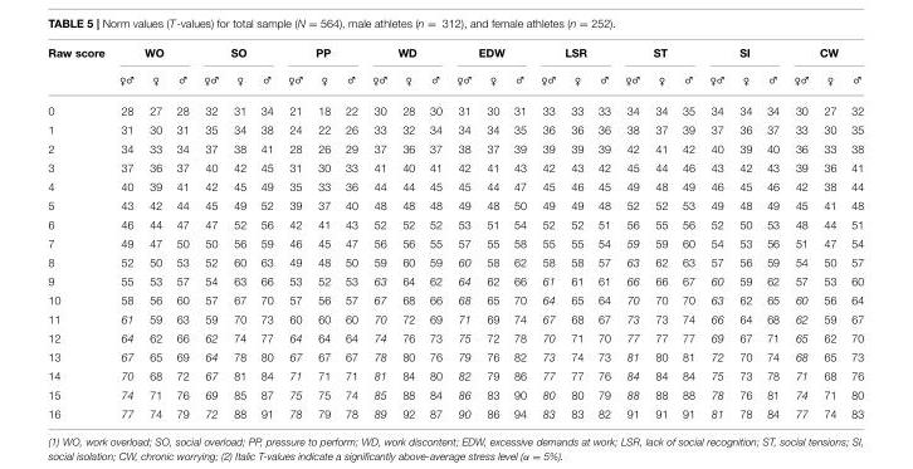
<table><thead><tr><td rowspan="2">Raw score</td><td colspan="3">WO</td><td colspan="3">SO</td><td colspan="3">PP</td><td colspan="3">WD</td><td colspan="3">EDW</td><td colspan="3">LSR</td><td colspan="3">ST</td><td colspan="3">SI</td><td colspan="3">CW</td></tr><tr><td>♀♂</td><td>♀</td><td>♂</td><td>♀♂</td><td>♀</td><td>♂</td><td>♀♂</td><td>♀</td><td>♂</td><td>♀♂</td><td>♀</td><td>♂</td><td>♀♂</td><td>♀</td><td>♂</td><td>♀♂</td><td>♀</td><td>♂</td><td>♀♂</td><td>♀</td><td>♂</td><td>♀♂</td><td>♀</td><td>♂</td><td>♀♂</td><td>♀</td><td>♂</td></tr></thead><tbody><tr><td>0</td><td>28</td><td>27</td><td>28</td><td>32</td><td>31</td><td>34</td><td>21</td><td>18</td><td>22</td><td>30</td><td>28</td><td>30</td><td>31</td><td>30</td><td>31</td><td>33</td><td>33</td><td>33</td><td>34</td><td>34</td><td>35</td><td>34</td><td>34</td><td>34</td><td>30</td><td>27</td><td>32</td></tr><tr><td>1</td><td>31</td><td>30</td><td>31</td><td>35</td><td>34</td><td>38</td><td>24</td><td>22</td><td>26</td><td>33</td><td>32</td><td>34</td><td>34</td><td>34</td><td>35</td><td>36</td><td>36</td><td>36</td><td>38</td><td>37</td><td>39</td><td>37</td><td>36</td><td>37</td><td>33</td><td>30</td><td>35</td></tr><tr><td>2</td><td>34</td><td>33</td><td>34</td><td>37</td><td>38</td><td>41</td><td>28</td><td>26</td><td>29</td><td>37</td><td>36</td><td>37</td><td>38</td><td>37</td><td>39</td><td>39</td><td>39</td><td>39</td><td>42</td><td>41</td><td>42</td><td>40</td><td>39</td><td>40</td><td>36</td><td>33</td><td>38</td></tr><tr><td>3</td><td>37</td><td>36</td><td>37</td><td>40</td><td>42</td><td>45</td><td>31</td><td>30</td><td>33</td><td>41</td><td>40</td><td>41</td><td>42</td><td>41</td><td>43</td><td>42</td><td>43</td><td>42</td><td>45</td><td>44</td><td>46</td><td>43</td><td>42</td><td>43</td><td>39</td><td>36</td><td>41</td></tr><tr><td>4</td><td>40</td><td>39</td><td>41</td><td>42</td><td>45</td><td>49</td><td>35</td><td>33</td><td>36</td><td>44</td><td>44</td><td>45</td><td>45</td><td>44</td><td>47</td><td>45</td><td>46</td><td>45</td><td>49</td><td>48</td><td>49</td><td>46</td><td>45</td><td>46</td><td>42</td><td>38</td><td>44</td></tr><tr><td>5</td><td>43</td><td>42</td><td>44</td><td>45</td><td>49</td><td>52</td><td>39</td><td>37</td><td>40</td><td>48</td><td>48</td><td>48</td><td>49</td><td>48</td><td>50</td><td>49</td><td>49</td><td>48</td><td>52</td><td>52</td><td>53</td><td>49</td><td>48</td><td>49</td><td>45</td><td>41</td><td>48</td></tr><tr><td>6</td><td>46</td><td>44</td><td>47</td><td>47</td><td>52</td><td>56</td><td>42</td><td>41</td><td>43</td><td>52</td><td>52</td><td>52</td><td>53</td><td>51</td><td>54</td><td>52</td><td>52</td><td>51</td><td>56</td><td>55</td><td>56</td><td>52</td><td>50</td><td>53</td><td>48</td><td>44</td><td>51</td></tr><tr><td>7</td><td>49</td><td>47</td><td>50</td><td>50</td><td>56</td><td>59</td><td>46</td><td>45</td><td>47</td><td>56</td><td>56</td><td>55</td><td>57</td><td>55</td><td>58</td><td>55</td><td>55</td><td>54</td><td>59</td><td>59</td><td>60</td><td>54</td><td>53</td><td>56</td><td>51</td><td>47</td><td>54</td></tr><tr><td>8</td><td>52</td><td>50</td><td>53</td><td>52</td><td>60</td><td>63</td><td>49</td><td>48</td><td>50</td><td>59</td><td>60</td><td>59</td><td>60</td><td>58</td><td>62</td><td>58</td><td>58</td><td>57</td><td>63</td><td>62</td><td>63</td><td>57</td><td>56</td><td>59</td><td>54</td><td>50</td><td>57</td></tr><tr><td>9</td><td>55</td><td>53</td><td>57</td><td>54</td><td>63</td><td>66</td><td>53</td><td>52</td><td>53</td><td>63</td><td>64</td><td>62</td><td>64</td><td>62</td><td>66</td><td>61</td><td>61</td><td>61</td><td>66</td><td>66</td><td>67</td><td>60</td><td>59</td><td>62</td><td>57</td><td>53</td><td>60</td></tr><tr><td>10</td><td>58</td><td>56</td><td>60</td><td>57</td><td>67</td><td>70</td><td>57</td><td>56</td><td>57</td><td>67</td><td>68</td><td>66</td><td>68</td><td>65</td><td>70</td><td>64</td><td>65</td><td>64</td><td>70</td><td>70</td><td>70</td><td>63</td><td>62</td><td>65</td><td>60</td><td>56</td><td>64</td></tr><tr><td>11</td><td>61</td><td>59</td><td>63</td><td>59</td><td>70</td><td>73</td><td>60</td><td>60</td><td>60</td><td>70</td><td>72</td><td>69</td><td>71</td><td>69</td><td>74</td><td>67</td><td>68</td><td>67</td><td>73</td><td>73</td><td>74</td><td>66</td><td>64</td><td>68</td><td>62</td><td>59</td><td>67</td></tr><tr><td>12</td><td>64</td><td>62</td><td>66</td><td>62</td><td>74</td><td>77</td><td>64</td><td>64</td><td>64</td><td>74</td><td>76</td><td>73</td><td>75</td><td>72</td><td>78</td><td>70</td><td>71</td><td>70</td><td>77</td><td>77</td><td>77</td><td>69</td><td>67</td><td>71</td><td>65</td><td>62</td><td>70</td></tr><tr><td>13</td><td>67</td><td>65</td><td>69</td><td>64</td><td>78</td><td>80</td><td>67</td><td>67</td><td>67</td><td>78</td><td>80</td><td>76</td><td>79</td><td>76</td><td>82</td><td>73</td><td>74</td><td>73</td><td>81</td><td>80</td><td>81</td><td>72</td><td>70</td><td>74</td><td>68</td><td>65</td><td>73</td></tr><tr><td>14</td><td>70</td><td>68</td><td>72</td><td>67</td><td>81</td><td>84</td><td>71</td><td>71</td><td>71</td><td>81</td><td>84</td><td>80</td><td>82</td><td>79</td><td>86</td><td>77</td><td>77</td><td>76</td><td>84</td><td>84</td><td>84</td><td>75</td><td>73</td><td>78</td><td>71</td><td>68</td><td>76</td></tr><tr><td>15</td><td>74</td><td>71</td><td>76</td><td>69</td><td>85</td><td>87</td><td>75</td><td>75</td><td>74</td><td>85</td><td>88</td><td>84</td><td>86</td><td>83</td><td>90</td><td>80</td><td>80</td><td>79</td><td>88</td><td>88</td><td>88</td><td>78</td><td>76</td><td>81</td><td>74</td><td>71</td><td>80</td></tr><tr><td>16</td><td>77</td><td>74</td><td>79</td><td>72</td><td>88</td><td>91</td><td>78</td><td>79</td><td>78</td><td>89</td><td>92</td><td>87</td><td>90</td><td>86</td><td>94</td><td>83</td><td>83</td><td>82</td><td>91</td><td>91</td><td>91</td><td>81</td><td>78</td><td>84</td><td>77</td><td>74</td><td>83</td></tr></tbody></table>